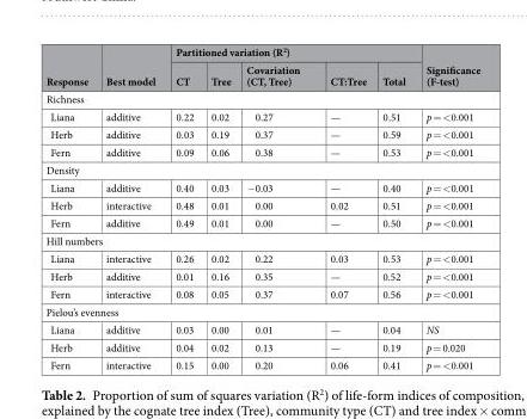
<table><thead><tr><td rowspan="2">Response</td><td rowspan="2">Best model</td><td colspan="5">Partitioned variation (R<sup>2</sup>)</td><td rowspan="2">Significance (F-test)</td></tr><tr><td>CT</td><td>Tree</td><td>Covariation (CT, Tree)</td><td>CT:Tree</td><td>Total</td></tr></thead><tbody><tr><td colspan="8">Richness</td></tr><tr><td>Liana</td><td>additive</td><td>0.22</td><td>0.02</td><td>0.27</td><td>—</td><td>0.51</td><td>p = &lt;0.001</td></tr><tr><td>Herb</td><td>additive</td><td>0.03</td><td>0.19</td><td>0.37</td><td>—</td><td>0.59</td><td>p = &lt;0.001</td></tr><tr><td>Fern</td><td>additive</td><td>0.09</td><td>0.06</td><td>0.38</td><td>—</td><td>0.53</td><td>p = &lt;0.001</td></tr><tr><td colspan="8">Density</td></tr><tr><td>Liana</td><td>additive</td><td>0.40</td><td>0.03</td><td>−0.03</td><td>—</td><td>0.40</td><td>p = &lt;0.001</td></tr><tr><td>Herb</td><td>interactive</td><td>0.48</td><td>0.01</td><td>0.00</td><td>0.02</td><td>0.51</td><td>p = &lt;0.001</td></tr><tr><td>Fern</td><td>additive</td><td>0.49</td><td>0.01</td><td>0.00</td><td>—</td><td>0.50</td><td>p = &lt;0.001</td></tr><tr><td colspan="8">Hill numbers</td></tr><tr><td>Liana</td><td>interactive</td><td>0.26</td><td>0.02</td><td>0.22</td><td>0.03</td><td>0.53</td><td>p = &lt;0.001</td></tr><tr><td>Herb</td><td>additive</td><td>0.01</td><td>0.16</td><td>0.35</td><td>—</td><td>0.52</td><td>p = &lt;0.001</td></tr><tr><td>Fern</td><td>interactive</td><td>0.08</td><td>0.05</td><td>0.37</td><td>0.07</td><td>0.56</td><td>p = &lt;0.001</td></tr><tr><td colspan="8">Pielou’s evenness</td></tr><tr><td>Liana</td><td>additive</td><td>0.03</td><td>0.00</td><td>0.01</td><td>—</td><td>0.04</td><td>NS</td></tr><tr><td>Herb</td><td>additive</td><td>0.04</td><td>0.02</td><td>0.13</td><td>—</td><td>0.19</td><td>p = 0.020</td></tr><tr><td>Fern</td><td>interactive</td><td>0.15</td><td>0.00</td><td>0.20</td><td>0.06</td><td>0.41</td><td>p = &lt;0.001</td></tr></tbody></table>